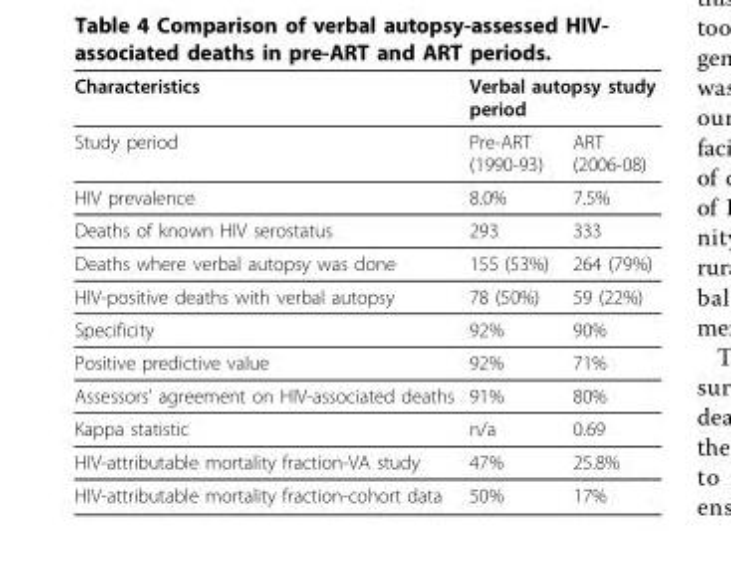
<table><thead><tr><td rowspan="2">Characteristics Study period</td><td colspan="2">Verbal autopsy study period</td></tr><tr><td>Pre-ART (1990-93)</td><td>ART (2006-08)</td></tr></thead><tbody><tr><td>HIV prevalence</td><td>8.0%</td><td>7.5%</td></tr><tr><td>Deaths of known HIV serostatus</td><td>293</td><td>333</td></tr><tr><td>Deaths where verbal autopsy was done</td><td>155 (53%)</td><td>264 (79%)</td></tr><tr><td>HIV-positive deaths with verbal autopsy</td><td>78 (50%)</td><td>59 (22%)</td></tr><tr><td>Specificity</td><td>92%</td><td>90%</td></tr><tr><td>Positive predictive value</td><td>92%</td><td>71%</td></tr><tr><td>Assessors’ agreement on HIV-associated deaths</td><td>91%</td><td>80%</td></tr><tr><td>Kappa statistic</td><td>n/a</td><td>0.69</td></tr><tr><td>HIV-attributable mortality fraction-VA study</td><td>47%</td><td>25.8%</td></tr><tr><td>HIV-attributable mortality fraction-cohort data</td><td>50%</td><td>17%</td></tr></tbody></table>